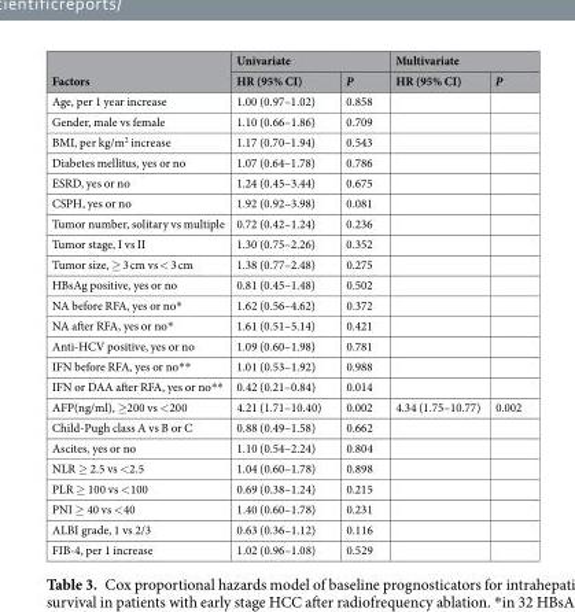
<table><thead><tr><td rowspan="2">Factors</td><td colspan="2">Univariate</td><td colspan="2">Multivariate</td></tr><tr><td>HR (95% CI)</td><td>P</td><td>HR (95% CI)</td><td>P</td></tr></thead><tbody><tr><td>Age, per 1 year increase</td><td>1.00 (0.97–1.02)</td><td>0.858</td><td></td><td></td></tr><tr><td>Gender, male vs female</td><td>1.10 (0.66–1.86)</td><td>0.709</td><td></td><td></td></tr><tr><td>BMI, per kg/m<sup>2</sup> increase</td><td>1.17 (0.70–1.94)</td><td>0.543</td><td></td><td></td></tr><tr><td>Diabetes mellitus, yes or no</td><td>1.07 (0.64–1.78)</td><td>0.786</td><td></td><td></td></tr><tr><td>ESRD, yes or no</td><td>1.24 (0.45–3.44)</td><td>0.675</td><td></td><td></td></tr><tr><td>CSPH, yes or no</td><td>1.92 (0.92–3.98)</td><td>0.081</td><td></td><td></td></tr><tr><td>Tumor number, solitary vs multiple</td><td>0.72 (0.42–1.24)</td><td>0.236</td><td></td><td></td></tr><tr><td>Tumor stage, I vs II</td><td>1.30 (0.75–2.26)</td><td>0.352</td><td></td><td></td></tr><tr><td>Tumor size, ≥ 3 cm vs &lt; 3 cm</td><td>1.38 (0.77–2.48)</td><td>0.275</td><td></td><td></td></tr><tr><td>HBsAg positive, yes or no</td><td>0.81 (0.45–1.48)</td><td>0.502</td><td></td><td></td></tr><tr><td>NA before RFA, yes or no*</td><td>1.62 (0.56–4.62)</td><td>0.372</td><td></td><td></td></tr><tr><td>NA after RFA, yes or no*</td><td>1.61 (0.51–5.14)</td><td>0.421</td><td></td><td></td></tr><tr><td>Anti-HCV positive, yes or no</td><td>1.09 (0.60–1.98)</td><td>0.781</td><td></td><td></td></tr><tr><td>IFN before RFA, yes or no**</td><td>1.01 (0.53–1.92)</td><td>0.988</td><td></td><td></td></tr><tr><td>IFN or DAA after RFA, yes or no**</td><td>0.42 (0.21–0.84)</td><td>0.014</td><td></td><td></td></tr><tr><td>AFP(ng/ml), ≥200 vs &lt;200</td><td>4.21 (1.71–10.40)</td><td>0.002</td><td>4.34 (1.75–10.77)</td><td>0.002</td></tr><tr><td>Child-Pugh class A vs B or C</td><td>0.88 (0.49–1.58)</td><td>0.662</td><td></td><td></td></tr><tr><td>Ascites, yes or no</td><td>1.10 (0.54–2.24)</td><td>0.804</td><td></td><td></td></tr><tr><td>NLR ≥ 2.5 vs &lt;2.5</td><td>1.04 (0.60–1.78)</td><td>0.898</td><td></td><td></td></tr><tr><td>PLR ≥ 100 vs &lt;100</td><td>0.69 (0.38–1.24)</td><td>0.215</td><td></td><td></td></tr><tr><td>PNI ≥ 40 vs &lt;40</td><td>1.40 (0.60–1.78)</td><td>0.231</td><td></td><td></td></tr><tr><td>ALBI grade, 1 vs 2/3</td><td>0.63 (0.36–1.12)</td><td>0.116</td><td></td><td></td></tr><tr><td>FIB-4, per 1 increase</td><td>1.02 (0.96–1.08)</td><td>0.529</td><td></td><td></td></tr></tbody></table>